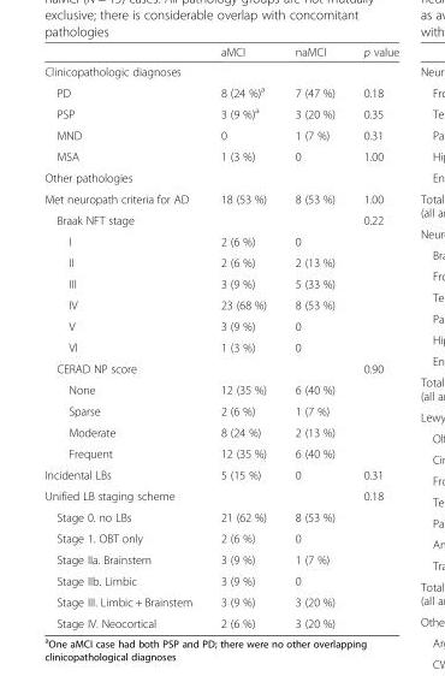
<table><thead><tr><td></td><td>aMCI</td><td>naMCI</td><td>p value</td></tr></thead><tbody><tr><td colspan="4">Clinicopathologic diagnoses</td></tr><tr><td>PD</td><td>8 (24 %)<sup>a</sup></td><td>7 (47 %)</td><td>0.18</td></tr><tr><td>PSP</td><td>3 (9 %)<sup>a</sup></td><td>3 (20 %)</td><td>0.35</td></tr><tr><td>MND</td><td>0</td><td>1 (7 %)</td><td>0.31</td></tr><tr><td>MSA</td><td>1 (3 %)</td><td>0</td><td>1.00</td></tr><tr><td colspan="4">Other pathologies</td></tr><tr><td>Met neuropath criteria for AD</td><td>18 (53 %)</td><td>8 (53 %)</td><td>1.00</td></tr><tr><td>Braak NFT stage</td><td></td><td></td><td>0.22</td></tr><tr><td>I</td><td>2 (6 %)</td><td>0</td><td></td></tr><tr><td>II</td><td>2 (6 %)</td><td>2 (13 %)</td><td></td></tr><tr><td>III</td><td>3 (9 %)</td><td>5 (33 %)</td><td></td></tr><tr><td>IV</td><td>23 (68 %)</td><td>8 (53 %)</td><td></td></tr><tr><td>V</td><td>3 (9 %)</td><td>0</td><td></td></tr><tr><td>VI</td><td>1 (3 %)</td><td>0</td><td></td></tr><tr><td>CERAD NP score</td><td></td><td></td><td>0.90</td></tr><tr><td>None</td><td>12 (35 %)</td><td>6 (40 %)</td><td></td></tr><tr><td>Sparse</td><td>2 (6 %)</td><td>1 (7 %)</td><td></td></tr><tr><td>Moderate</td><td>8 (24 %)</td><td>2 (13 %)</td><td></td></tr><tr><td>Frequent</td><td>12 (35 %)</td><td>6 (40 %)</td><td></td></tr><tr><td>Incidental LBs</td><td>5 (15 %)</td><td>0</td><td>0.31</td></tr><tr><td>Unified LB staging scheme</td><td></td><td></td><td>0.18</td></tr><tr><td>Stage 0. no LBs</td><td>21 (62 %)</td><td>8 (53 %)</td><td></td></tr><tr><td>Stage 1. OBT only</td><td>2 (6 %)</td><td>0</td><td></td></tr><tr><td>Stage IIa. Brainstem</td><td>3 (9 %)</td><td>1 (7 %)</td><td></td></tr><tr><td>Stage IIb. Limbic</td><td>3 (9 %)</td><td>0</td><td></td></tr><tr><td>Stage III. Limbic + Brainstem</td><td>3 (9 %)</td><td>3 (20 %)</td><td></td></tr><tr><td>Stage IV. Neocortical</td><td>2 (6 %)</td><td>3 (20 %)</td><td></td></tr></tbody></table>